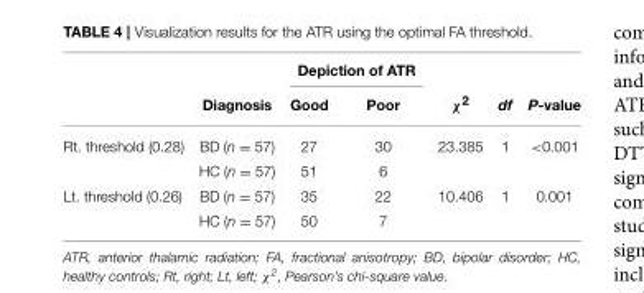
<table><thead><tr><td rowspan="2"></td><td rowspan="2">Diagnosis</td><td colspan="2">Depiction of ATR</td><td rowspan="2">χ<sup>2</sup></td><td rowspan="2">df</td><td rowspan="2">P-value</td></tr><tr><td>Good</td><td>Poor</td></tr></thead><tbody><tr><td rowspan="2">Rt. threshold (0.28)</td><td>BD (n = 57)</td><td>27</td><td>30</td><td>23.385</td><td>1</td><td>&lt;0.001</td></tr><tr><td>HC (n = 57)</td><td>51</td><td>6</td><td></td><td></td><td></td></tr><tr><td rowspan="2">Lt. threshold (0.26)</td><td>BD (n = 57)</td><td>35</td><td>22</td><td>10.406</td><td>1</td><td>0.001</td></tr><tr><td>HC (n = 57)</td><td>50</td><td>7</td><td></td><td></td><td></td></tr></tbody></table>